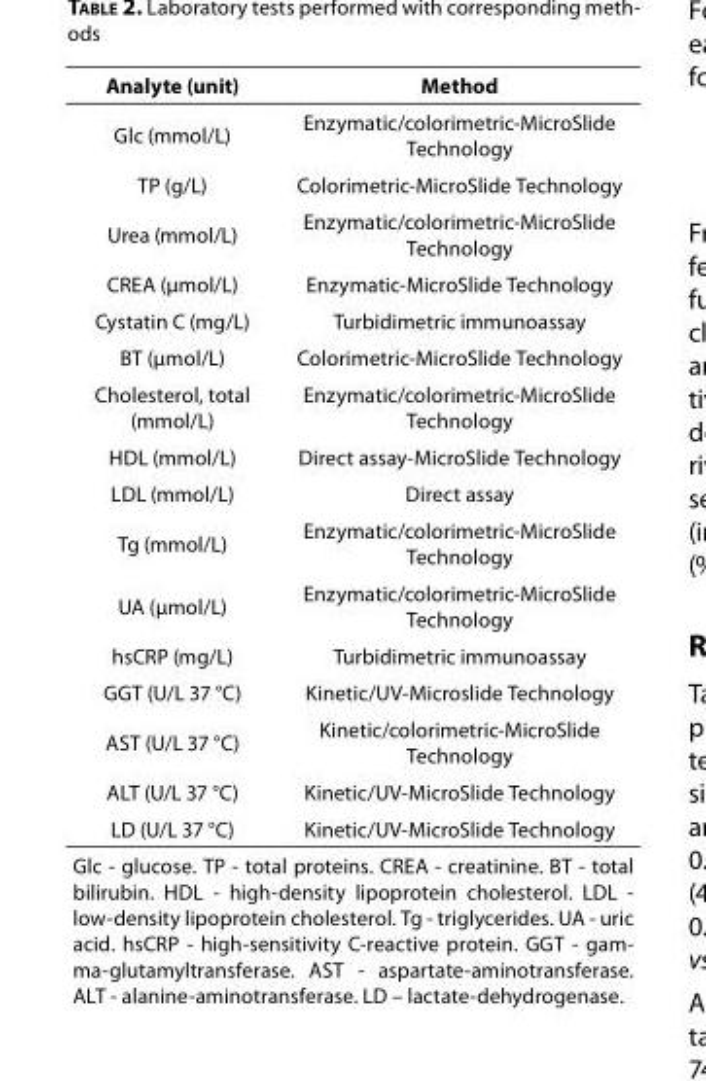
<table><thead><tr><td>Analyte (unit)</td><td>Method</td></tr></thead><tbody><tr><td>Glc (mmol/L)</td><td>Enzymatic/colorimetric-MicroSlide Technology</td></tr><tr><td>TP (g/L)</td><td>Colorimetric-MicroSlide Technology</td></tr><tr><td>Urea (mmol/L)</td><td>Enzymatic/colorimetric-MicroSlide Technology</td></tr><tr><td>CREA (µmol/L)</td><td>Enzymatic-MicroSlide Technology</td></tr><tr><td>Cystatin C (mg/L)</td><td>Turbidimetric immunoassay</td></tr><tr><td>BT (µmol/L)</td><td>Colorimetric-MicroSlide Technology</td></tr><tr><td>Cholesterol, total (mmol/L)</td><td>Enzymatic/colorimetric-MicroSlide Technology</td></tr><tr><td>HDL (mmol/L)</td><td>Direct assay-MicroSlide Technology</td></tr><tr><td>LDL (mmol/L)</td><td>Direct assay</td></tr><tr><td>Tg (mmol/L)</td><td>Enzymatic/colorimetric-MicroSlide Technology</td></tr><tr><td>UA (µmol/L)</td><td>Enzymatic/colorimetric-MicroSlide Technology</td></tr><tr><td>hsCRP (mg/L)</td><td>Turbidimetric immunoassay</td></tr><tr><td>GGT (U/L 37 °C)</td><td>Kinetic/UV-Microslide Technology</td></tr><tr><td>AST (U/L 37 °C)</td><td>Kinetic/colorimetric-MicroSlide Technology</td></tr><tr><td>ALT (U/L 37 °C)</td><td>Kinetic/UV-MicroSlide Technology</td></tr><tr><td>LD (U/L 37 °C)</td><td>Kinetic/UV-MicroSlide Technology</td></tr><tr><td colspan="2">Glc - glucose. TP - total proteins. CREA - creatinine. BT - total bilirubin. HDL - high-density lipoprotein cholesterol. LDL - low-density lipoprotein cholesterol. Tg - triglycerides. UA - uric acid. hsCRP - high-sensitivity C-reactive protein. GGT - gam- ma-glutamyltransferase. AST - aspartate-aminotransferase. ALT - alanine-aminotransferase. LD – lactate-dehydrogenase.</td></tr></tbody></table>